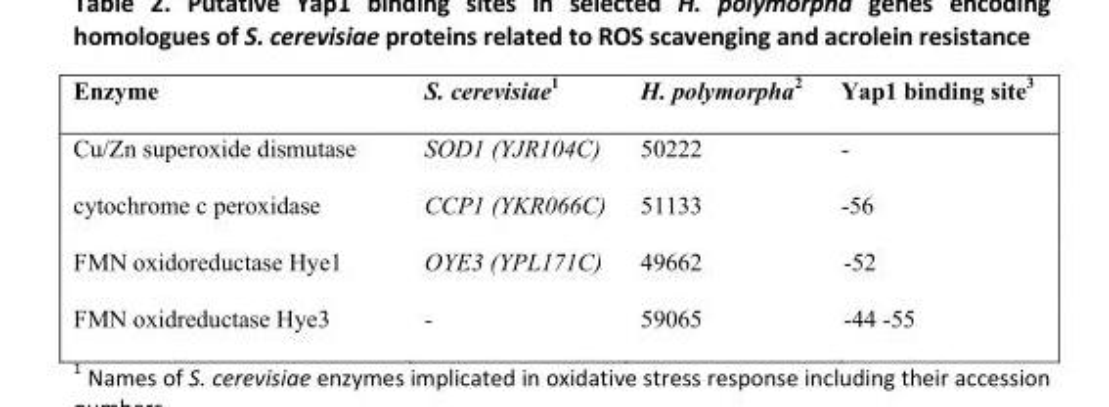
<table><thead><tr><td>Enzyme</td><td>S. cerevisiae<sup>1</sup></td><td>H. polymorpha<sup>2</sup></td><td>Yap1 binding site<sup>3</sup></td></tr></thead><tbody><tr><td>Cu/Zn superoxide dismutase</td><td>SOD1 (YJR104C)</td><td>50222</td><td>-</td></tr><tr><td>cytochrome c peroxidase</td><td>CCP1 (YKR066C)</td><td>51133</td><td>-56</td></tr><tr><td>FMN oxidoreductase Hye1</td><td>OYE3 (YPL171C)</td><td>49662</td><td>-52</td></tr><tr><td>FMN oxidreductase Hye3</td><td>-</td><td>59065</td><td>-44 -55</td></tr></tbody></table>